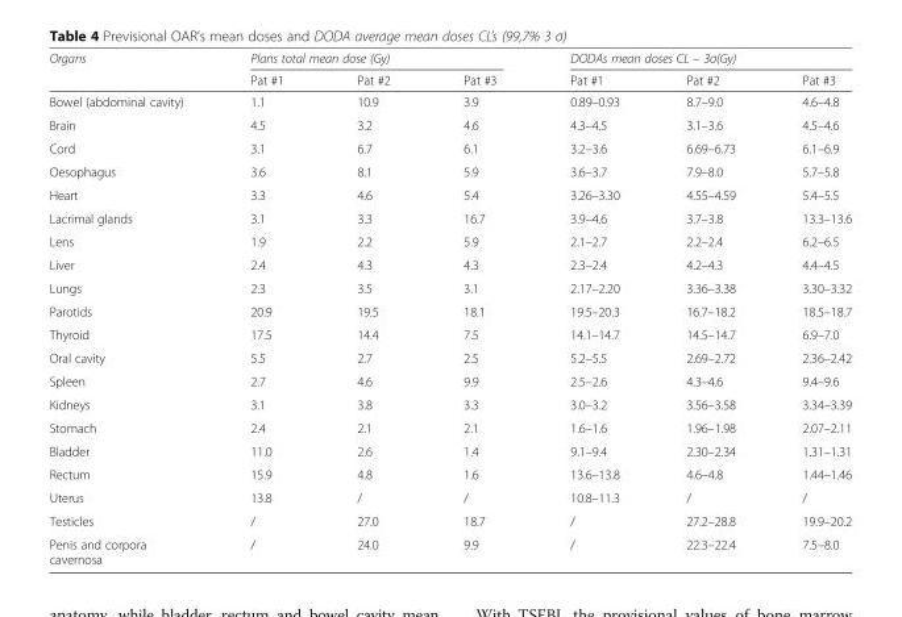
<table><thead><tr><td rowspan="2">Organs</td><td colspan="3">Plans total mean dose (Gy)</td><td colspan="3">DODAs mean doses CL – 3σ(Gy)</td></tr><tr><td>Pat #1</td><td>Pat #2</td><td>Pat #3</td><td>Pat #1</td><td>Pat #2</td><td>Pat #3</td></tr></thead><tbody><tr><td>Bowel (abdominal cavity)</td><td>1.1</td><td>10.9</td><td>3.9</td><td>0.89–0.93</td><td>8.7–9.0</td><td>4.6–4.8</td></tr><tr><td>Brain</td><td>4.5</td><td>3.2</td><td>4.6</td><td>4.3–4.5</td><td>3.1–3.6</td><td>4.5–4.6</td></tr><tr><td>Cord</td><td>3.1</td><td>6.7</td><td>6.1</td><td>3.2–3.6</td><td>6.69–6.73</td><td>6.1–6.9</td></tr><tr><td>Oesophagus</td><td>3.6</td><td>8.1</td><td>5.9</td><td>3.6–3.7</td><td>7.9–8.0</td><td>5.7–5.8</td></tr><tr><td>Heart</td><td>3.3</td><td>4.6</td><td>5.4</td><td>3.26–3.30</td><td>4.55–4.59</td><td>5.4–5.5</td></tr><tr><td>Lacrimal glands</td><td>3.1</td><td>3.3</td><td>16.7</td><td>3.9–4.6</td><td>3.7–3.8</td><td>13.3–13.6</td></tr><tr><td>Lens</td><td>1.9</td><td>2.2</td><td>5.9</td><td>2.1–2.7</td><td>2.2–2.4</td><td>6.2–6.5</td></tr><tr><td>Liver</td><td>2.4</td><td>4.3</td><td>4.3</td><td>2.3–2.4</td><td>4.2–4.3</td><td>4.4–4.5</td></tr><tr><td>Lungs</td><td>2.3</td><td>3.5</td><td>3.1</td><td>2.17–2.20</td><td>3.36–3.38</td><td>3.30–3.32</td></tr><tr><td>Parotids</td><td>20.9</td><td>19.5</td><td>18.1</td><td>19.5–20.3</td><td>16.7–18.2</td><td>18.5–18.7</td></tr><tr><td>Thyroid</td><td>17.5</td><td>14.4</td><td>7.5</td><td>14.1–14.7</td><td>14.5–14.7</td><td>6.9–7.0</td></tr><tr><td>Oral cavity</td><td>5.5</td><td>2.7</td><td>2.5</td><td>5.2–5.5</td><td>2.69–2.72</td><td>2.36–2.42</td></tr><tr><td>Spleen</td><td>2.7</td><td>4.6</td><td>9.9</td><td>2.5–2.6</td><td>4.3–4.6</td><td>9.4–9.6</td></tr><tr><td>Kidneys</td><td>3.1</td><td>3.8</td><td>3.3</td><td>3.0–3.2</td><td>3.56–3.58</td><td>3.34–3.39</td></tr><tr><td>Stomach</td><td>2.4</td><td>2.1</td><td>2.1</td><td>1.6–1.6</td><td>1.96–1.98</td><td>2.07–2.11</td></tr><tr><td>Bladder</td><td>11.0</td><td>2.6</td><td>1.4</td><td>9.1–9.4</td><td>2.30–2.34</td><td>1.31–1.31</td></tr><tr><td>Rectum</td><td>15.9</td><td>4.8</td><td>1.6</td><td>13.6–13.8</td><td>4.6–4.8</td><td>1.44–1.46</td></tr><tr><td>Uterus</td><td>13.8</td><td>/</td><td>/</td><td>10.8–11.3</td><td>/</td><td>/</td></tr><tr><td>Testicles</td><td>/</td><td>27.0</td><td>18.7</td><td>/</td><td>27.2–28.8</td><td>19.9–20.2</td></tr><tr><td>Penis and corpora cavernosa</td><td>/</td><td>24.0</td><td>9.9</td><td>/</td><td>22.3–22.4</td><td>7.5–8.0</td></tr></tbody></table>